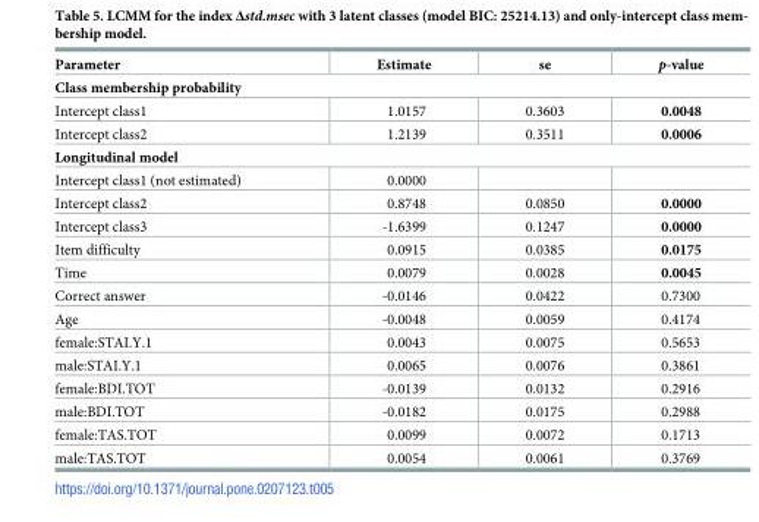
<table><thead><tr><td>Parameter</td><td>Estimate</td><td>se</td><td>p-value</td></tr></thead><tbody><tr><td colspan="4">Class membership probability</td></tr><tr><td>Intercept class1</td><td>1.0157</td><td>0.3603</td><td>0.0048</td></tr><tr><td>Intercept class2</td><td>1.2139</td><td>0.3511</td><td>0.0006</td></tr><tr><td colspan="4">Longitudinal model</td></tr><tr><td>Intercept class1 (not estimated)</td><td>0.0000</td><td></td><td></td></tr><tr><td>Intercept class2</td><td>0.8748</td><td>0.0850</td><td>0.0000</td></tr><tr><td>Intercept class3</td><td>-1.6399</td><td>0.1247</td><td>0.0000</td></tr><tr><td>Item difficulty</td><td>0.0915</td><td>0.0385</td><td>0.0175</td></tr><tr><td>Time</td><td>0.0079</td><td>0.0028</td><td>0.0045</td></tr><tr><td>Correct answer</td><td>-0.0146</td><td>0.0422</td><td>0.7300</td></tr><tr><td>Age</td><td>-0.0048</td><td>0.0059</td><td>0.4174</td></tr><tr><td>female:STAI.Y.1</td><td>0.0043</td><td>0.0075</td><td>0.5653</td></tr><tr><td>male:STAI.Y.1</td><td>0.0065</td><td>0.0076</td><td>0.3861</td></tr><tr><td>female:BDI.TOT</td><td>-0.0139</td><td>0.0132</td><td>0.2916</td></tr><tr><td>male:BDI.TOT</td><td>-0.0182</td><td>0.0175</td><td>0.2988</td></tr><tr><td>female:TAS.TOT</td><td>0.0099</td><td>0.0072</td><td>0.1713</td></tr><tr><td>male:TAS.TOT</td><td>0.0054</td><td>0.0061</td><td>0.3769</td></tr></tbody></table>